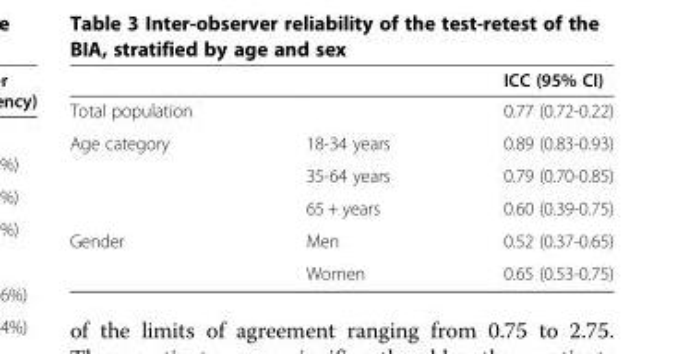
<table><thead><tr><td></td><td></td><td>ICC (95% CI)</td></tr></thead><tbody><tr><td>Total population</td><td></td><td>0.77 (0.72-0.22)</td></tr><tr><td rowspan="3">Age category</td><td>18-34 years</td><td>0.89 (0.83-0.93)</td></tr><tr><td>35-64 years</td><td>0.79 (0.70-0.85)</td></tr><tr><td>65 + years</td><td>0.60 (0.39-0.75)</td></tr><tr><td rowspan="2">Gender</td><td>Men</td><td>0.52 (0.37-0.65)</td></tr><tr><td>Women</td><td>0.65 (0.53-0.75)</td></tr></tbody></table>